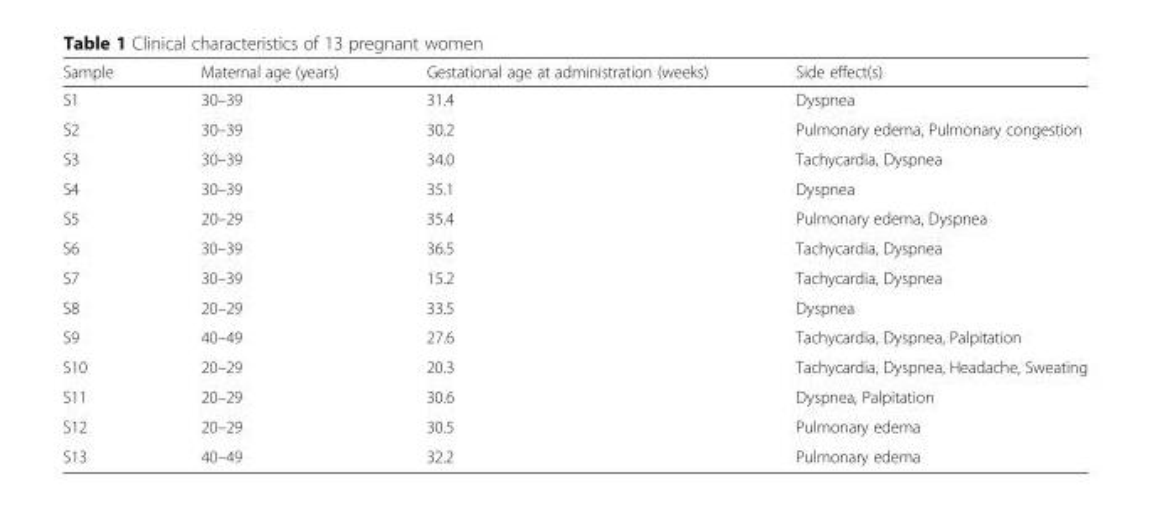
<table><thead><tr><td>Sample</td><td>Maternal age (years)</td><td>Gestational age at administration (weeks)</td><td>Side effect(s)</td></tr></thead><tbody><tr><td>S1</td><td>30–39</td><td>31.4</td><td>Dyspnea</td></tr><tr><td>S2</td><td>30–39</td><td>30.2</td><td>Pulmonary edema, Pulmonary congestion</td></tr><tr><td>S3</td><td>30–39</td><td>34.0</td><td>Tachycardia, Dyspnea</td></tr><tr><td>S4</td><td>30–39</td><td>35.1</td><td>Dyspnea</td></tr><tr><td>S5</td><td>20–29</td><td>35.4</td><td>Pulmonary edema, Dyspnea</td></tr><tr><td>S6</td><td>30–39</td><td>36.5</td><td>Tachycardia, Dyspnea</td></tr><tr><td>S7</td><td>30–39</td><td>15.2</td><td>Tachycardia, Dyspnea</td></tr><tr><td>S8</td><td>20–29</td><td>33.5</td><td>Dyspnea</td></tr><tr><td>S9</td><td>40–49</td><td>27.6</td><td>Tachycardia, Dyspnea, Palpitation</td></tr><tr><td>S10</td><td>20–29</td><td>20.3</td><td>Tachycardia, Dyspnea, Headache, Sweating</td></tr><tr><td>S11</td><td>20–29</td><td>30.6</td><td>Dyspnea, Palpitation</td></tr><tr><td>S12</td><td>20–29</td><td>30.5</td><td>Pulmonary edema</td></tr><tr><td>S13</td><td>40–49</td><td>32.2</td><td>Pulmonary edema</td></tr></tbody></table>